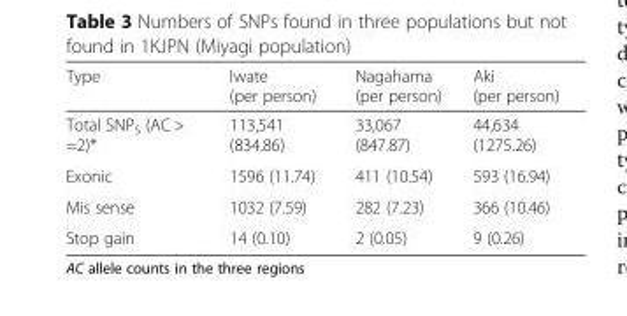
<table><thead><tr><td>Type</td><td>Iwate (per person)</td><td>Nagahama (per person)</td><td>Aki (per person)</td></tr></thead><tbody><tr><td>Total SNP<sub>S</sub> (AC &gt; =2)*</td><td>113,541 (834.86)</td><td>33,067 (847.87)</td><td>44,634 (1275.26)</td></tr><tr><td>Exonic</td><td>1596 (11.74)</td><td>411 (10.54)</td><td>593 (16.94)</td></tr><tr><td>Mis sense</td><td>1032 (7.59)</td><td>282 (7.23)</td><td>366 (10.46)</td></tr><tr><td>Stop gain</td><td>14 (0.10)</td><td>2 (0.05)</td><td>9 (0.26)</td></tr></tbody></table>